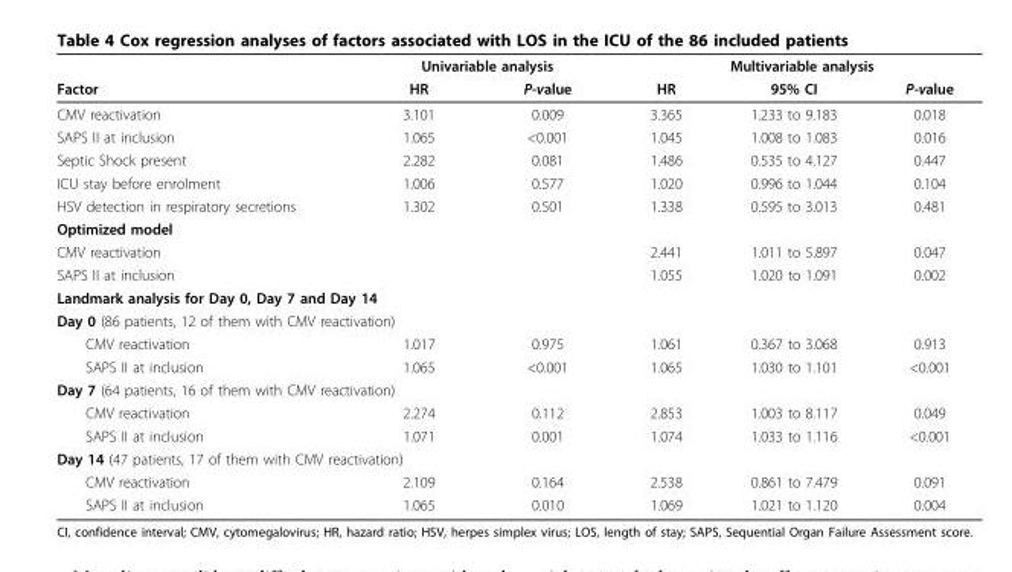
<table><thead><tr><td rowspan="2">Factor</td><td colspan="2">Univariable analysis</td><td colspan="3">Multivariable analysis</td></tr><tr><td>HR</td><td>P-value</td><td>HR</td><td>95% CI</td><td>P-value</td></tr></thead><tbody><tr><td>CMV reactivation</td><td>3.101</td><td>0.009</td><td>3.365</td><td>1.233 to 9.183</td><td>0.018</td></tr><tr><td>SAPS II at inclusion</td><td>1.065</td><td>&lt;0.001</td><td>1.045</td><td>1.008 to 1.083</td><td>0.016</td></tr><tr><td>Septic Shock present</td><td>2.282</td><td>0.081</td><td>1.486</td><td>0.535 to 4.127</td><td>0.447</td></tr><tr><td>ICU stay before enrolment</td><td>1.006</td><td>0.577</td><td>1.020</td><td>0.996 to 1.044</td><td>0.104</td></tr><tr><td>HSV detection in respiratory secretions</td><td>1.302</td><td>0.501</td><td>1.338</td><td>0.595 to 3.013</td><td>0.481</td></tr><tr><td colspan="6">Optimized model</td></tr><tr><td>CMV reactivation</td><td></td><td></td><td>2.441</td><td>1.011 to 5.897</td><td>0.047</td></tr><tr><td>SAPS II at inclusion</td><td></td><td></td><td>1.055</td><td>1.020 to 1.091</td><td>0.002</td></tr><tr><td colspan="6">Landmark analysis for Day 0, Day 7 and Day 14</td></tr><tr><td colspan="6">Day 0 (86 patients, 12 of them with CMV reactivation)</td></tr><tr><td>CMV reactivation</td><td>1.017</td><td>0.975</td><td>1.061</td><td>0.367 to 3.068</td><td>0.913</td></tr><tr><td>SAPS II at inclusion</td><td>1.065</td><td>&lt;0.001</td><td>1.065</td><td>1.030 to 1.101</td><td>&lt;0.001</td></tr><tr><td colspan="6">Day 7 (64 patients, 16 of them with CMV reactivation)</td></tr><tr><td>CMV reactivation</td><td>2.274</td><td>0.112</td><td>2.853</td><td>1.003 to 8.117</td><td>0.049</td></tr><tr><td>SAPS II at inclusion</td><td>1.071</td><td>0.001</td><td>1.074</td><td>1.033 to 1.116</td><td>&lt;0.001</td></tr><tr><td colspan="6">Day 14 (47 patients, 17 of them with CMV reactivation)</td></tr><tr><td>CMV reactivation</td><td>2.109</td><td>0.164</td><td>2.538</td><td>0.861 to 7.479</td><td>0.091</td></tr><tr><td>SAPS II at inclusion</td><td>1.065</td><td>0.010</td><td>1.069</td><td>1.021 to 1.120</td><td>0.004</td></tr></tbody></table>